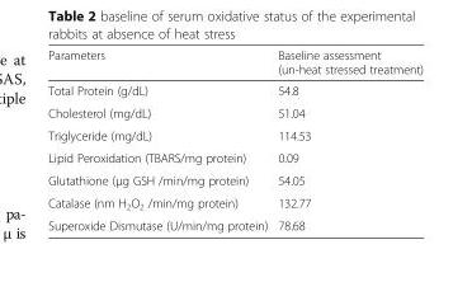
<table><thead><tr><td>Parameters</td><td>Baseline assessment (un-heat stressed treatment)</td></tr></thead><tbody><tr><td>Total Protein (g/dL)</td><td>54.8</td></tr><tr><td>Cholesterol (mg/dL)</td><td>51.04</td></tr><tr><td>Triglyceride (mg/dL)</td><td>114.53</td></tr><tr><td>Lipid Peroxidation (TBARS/mg protein)</td><td>0.09</td></tr><tr><td>Glutathione (μg GSH /min/mg protein)</td><td>54.05</td></tr><tr><td>Catalase (nm H<sub>2</sub>O<sub>2</sub> /min/mg protein)</td><td>132.77</td></tr><tr><td>Superoxide Dismutase (U/min/mg protein)</td><td>78.68</td></tr></tbody></table>